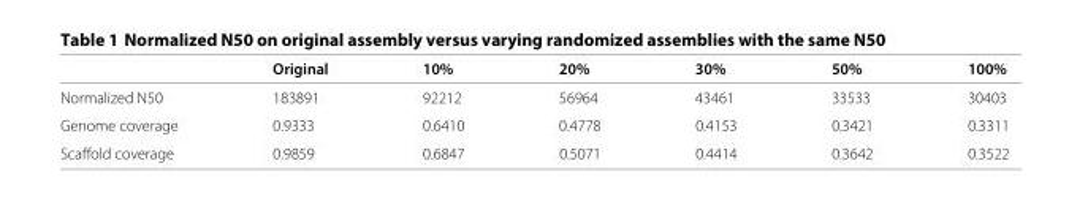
<table><thead><tr><td></td><td>Original</td><td>10%</td><td>20%</td><td>30%</td><td>50%</td><td>100%</td></tr></thead><tbody><tr><td>Normalized N50</td><td>183891</td><td>92212</td><td>56964</td><td>43461</td><td>33533</td><td>30403</td></tr><tr><td>Genome coverage</td><td>0.9333</td><td>0.6410</td><td>0.4778</td><td>0.4153</td><td>0.3421</td><td>0.3311</td></tr><tr><td>Scaffold coverage</td><td>0.9859</td><td>0.6847</td><td>0.5071</td><td>0.4414</td><td>0.3642</td><td>0.3522</td></tr></tbody></table>